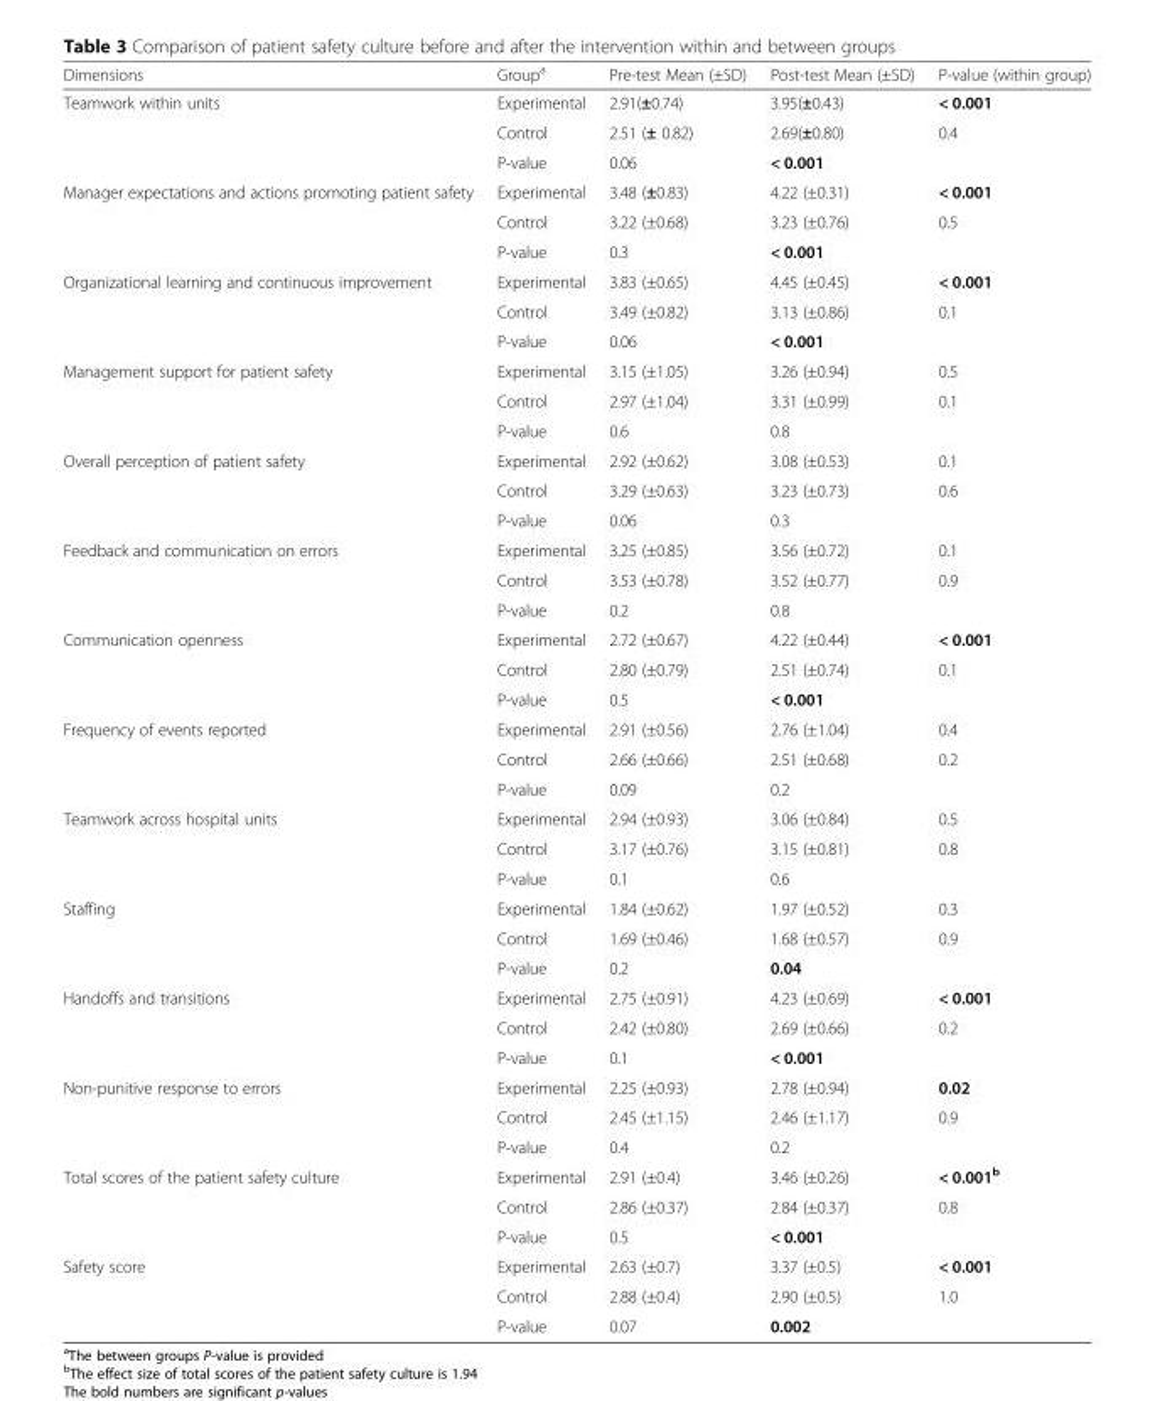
<table><thead><tr><td>Dimensions</td><td>Group<sup>a</sup></td><td>Pre-test Mean (±SD)</td><td>Post-test Mean (±SD)</td><td>P-value (within group)</td></tr></thead><tbody><tr><td rowspan="3">Teamwork within units</td><td>Experimental</td><td>2.91(±0.74)</td><td>3.95(±0.43)</td><td>&lt; 0.001</td></tr><tr><td>Control</td><td>2.51 (± 0.82)</td><td>2.69(±0.80)</td><td>0.4</td></tr><tr><td>P-value</td><td>0.06</td><td>&lt; 0.001</td><td></td></tr><tr><td rowspan="3">Manager expectations and actions promoting patient safety</td><td>Experimental</td><td>3.48 (±0.83)</td><td>4.22 (±0.31)</td><td>&lt; 0.001</td></tr><tr><td>Control</td><td>3.22 (±0.68)</td><td>3.23 (±0.76)</td><td>0.5</td></tr><tr><td>P-value</td><td>0.3</td><td>&lt; 0.001</td><td></td></tr><tr><td rowspan="3">Organizational learning and continuous improvement</td><td>Experimental</td><td>3.83 (±0.65)</td><td>4.45 (±0.45)</td><td>&lt; 0.001</td></tr><tr><td>Control</td><td>3.49 (±0.82)</td><td>3.13 (±0.86)</td><td>0.1</td></tr><tr><td>P-value</td><td>0.06</td><td>&lt; 0.001</td><td></td></tr><tr><td rowspan="3">Management support for patient safety</td><td>Experimental</td><td>3.15 (±1.05)</td><td>3.26 (±0.94)</td><td>0.5</td></tr><tr><td>Control</td><td>2.97 (±1.04)</td><td>3.31 (±0.99)</td><td>0.1</td></tr><tr><td>P-value</td><td>0.6</td><td>0.8</td><td></td></tr><tr><td rowspan="3">Overall perception of patient safety</td><td>Experimental</td><td>2.92 (±0.62)</td><td>3.08 (±0.53)</td><td>0.1</td></tr><tr><td>Control</td><td>3.29 (±0.63)</td><td>3.23 (±0.73)</td><td>0.6</td></tr><tr><td>P-value</td><td>0.06</td><td>0.3</td><td></td></tr><tr><td rowspan="3">Feedback and communication on errors</td><td>Experimental</td><td>3.25 (±0.85)</td><td>3.56 (±0.72)</td><td>0.1</td></tr><tr><td>Control</td><td>3.53 (±0.78)</td><td>3.52 (±0.77)</td><td>0.9</td></tr><tr><td>P-value</td><td>0.2</td><td>0.8</td><td></td></tr><tr><td rowspan="3">Communication openness</td><td>Experimental</td><td>2.72 (±0.67)</td><td>4.22 (±0.44)</td><td>&lt; 0.001</td></tr><tr><td>Control</td><td>2.80 (±0.79)</td><td>2.51 (±0.74)</td><td>0.1</td></tr><tr><td>P-value</td><td>0.5</td><td>&lt; 0.001</td><td></td></tr><tr><td rowspan="3">Frequency of events reported</td><td>Experimental</td><td>2.91 (±0.56)</td><td>2.76 (±1.04)</td><td>0.4</td></tr><tr><td>Control</td><td>2.66 (±0.66)</td><td>2.51 (±0.68)</td><td>0.2</td></tr><tr><td>P-value</td><td>0.09</td><td>0.2</td><td></td></tr><tr><td rowspan="3">Teamwork across hospital units</td><td>Experimental</td><td>2.94 (±0.93)</td><td>3.06 (±0.84)</td><td>0.5</td></tr><tr><td>Control</td><td>3.17 (±0.76)</td><td>3.15 (±0.81)</td><td>0.8</td></tr><tr><td>P-value</td><td>0.1</td><td>0.6</td><td></td></tr><tr><td rowspan="3">Staffing</td><td>Experimental</td><td>1.84 (±0.62)</td><td>1.97 (±0.52)</td><td>0.3</td></tr><tr><td>Control</td><td>1.69 (±0.46)</td><td>1.68 (±0.57)</td><td>0.9</td></tr><tr><td>P-value</td><td>0.2</td><td>0.04</td><td></td></tr><tr><td rowspan="3">Handoffs and transitions</td><td>Experimental</td><td>2.75 (±0.91)</td><td>4.23 (±0.69)</td><td>&lt; 0.001</td></tr><tr><td>Control</td><td>2.42 (±0.80)</td><td>2.69 (±0.66)</td><td>0.2</td></tr><tr><td>P-value</td><td>0.1</td><td>&lt; 0.001</td><td></td></tr><tr><td rowspan="3">Non-punitive response to errors</td><td>Experimental</td><td>2.25 (±0.93)</td><td>2.78 (±0.94)</td><td>0.02</td></tr><tr><td>Control</td><td>2.45 (±1.15)</td><td>2.46 (±1.17)</td><td>0.9</td></tr><tr><td>P-value</td><td>0.4</td><td>0.2</td><td></td></tr><tr><td rowspan="3">Total scores of the patient safety culture</td><td>Experimental</td><td>2.91 (±0.4)</td><td>3.46 (±0.26)</td><td>&lt; 0.001<sup>b</sup></td></tr><tr><td>Control</td><td>2.86 (±0.37)</td><td>2.84 (±0.37)</td><td>0.8</td></tr><tr><td>P-value</td><td>0.5</td><td>&lt; 0.001</td><td></td></tr><tr><td rowspan="3">Safety score</td><td>Experimental</td><td>2.63 (±0.7)</td><td>3.37 (±0.5)</td><td>&lt; 0.001</td></tr><tr><td>Control</td><td>2.88 (±0.4)</td><td>2.90 (±0.5)</td><td>1.0</td></tr><tr><td>P-value</td><td>0.07</td><td>0.002</td><td></td></tr></tbody></table>